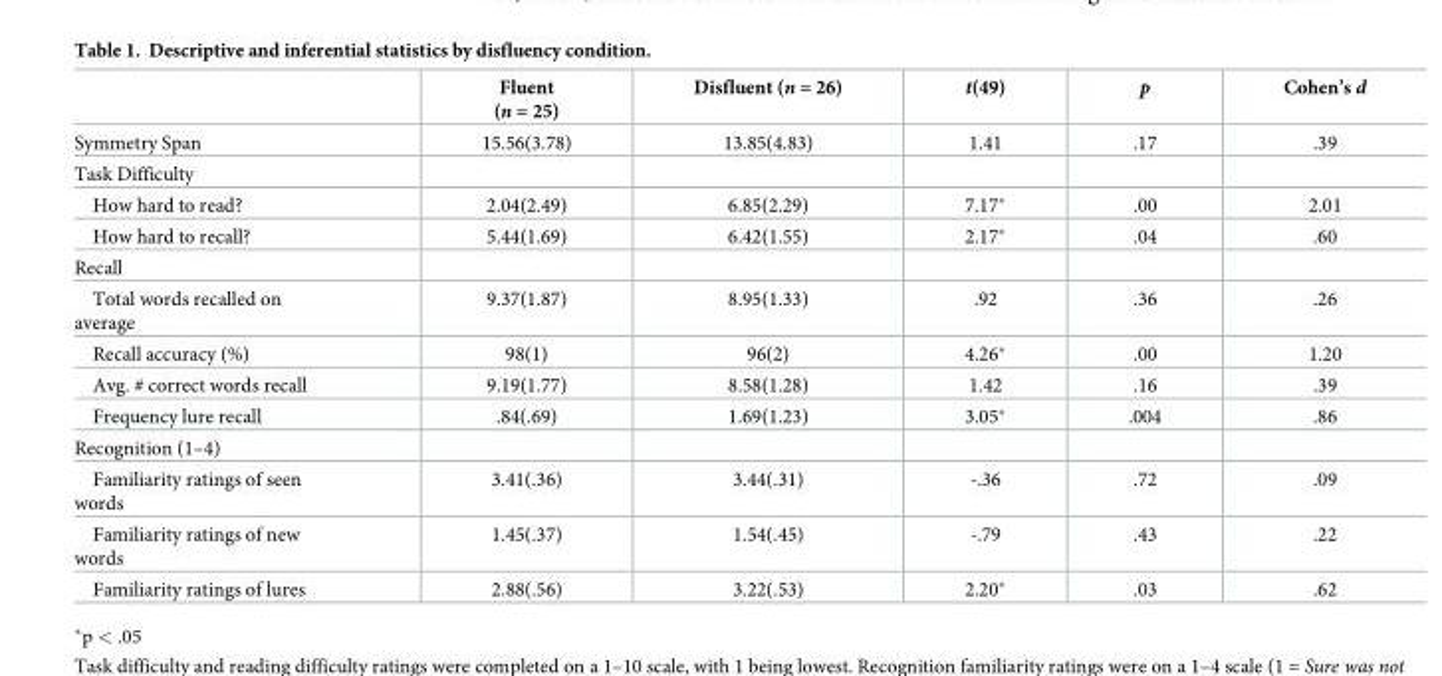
<table><thead><tr><td></td><td>Fluent (n = 25)</td><td>Disfluent (n = 26)</td><td>t(49)</td><td>p</td><td>Cohen’s d</td></tr></thead><tbody><tr><td>Symmetry Span</td><td>15.56(3.78)</td><td>13.85(4.83)</td><td>1.41</td><td>.17</td><td>.39</td></tr><tr><td colspan="6">Task Difficulty</td></tr><tr><td>How hard to read?</td><td>2.04(2.49)</td><td>6.85(2.29)</td><td>7.17*</td><td>.00</td><td>2.01</td></tr><tr><td>How hard to recall?</td><td>5.44(1.69)</td><td>6.42(1.55)</td><td>2.17*</td><td>.04</td><td>.60</td></tr><tr><td colspan="6">Recall</td></tr><tr><td>Total words recalled on average</td><td>9.37(1.87)</td><td>8.95(1.33)</td><td>.92</td><td>.36</td><td>.26</td></tr><tr><td>Recall accuracy (%)</td><td>98(1)</td><td>96(2)</td><td>4.26*</td><td>.00</td><td>1.20</td></tr><tr><td>Avg. # correct words recall</td><td>9.19(1.77)</td><td>8.58(1.28)</td><td>1.42</td><td>.16</td><td>.39</td></tr><tr><td>Frequency lure recall</td><td>.84(.69)</td><td>1.69(1.23)</td><td>3.05*</td><td>.004</td><td>.86</td></tr><tr><td colspan="6">Recognition (1–4)</td></tr><tr><td>Familiarity ratings of seen words</td><td>3.41(.36)</td><td>3.44(.31)</td><td>-.36</td><td>.72</td><td>.09</td></tr><tr><td>Familiarity ratings of new words</td><td>1.45(.37)</td><td>1.54(.45)</td><td>-.79</td><td>.43</td><td>.22</td></tr><tr><td>Familiarity ratings of lures</td><td>2.88(.56)</td><td>3.22(.53)</td><td>2.20*</td><td>.03</td><td>.62</td></tr></tbody></table>